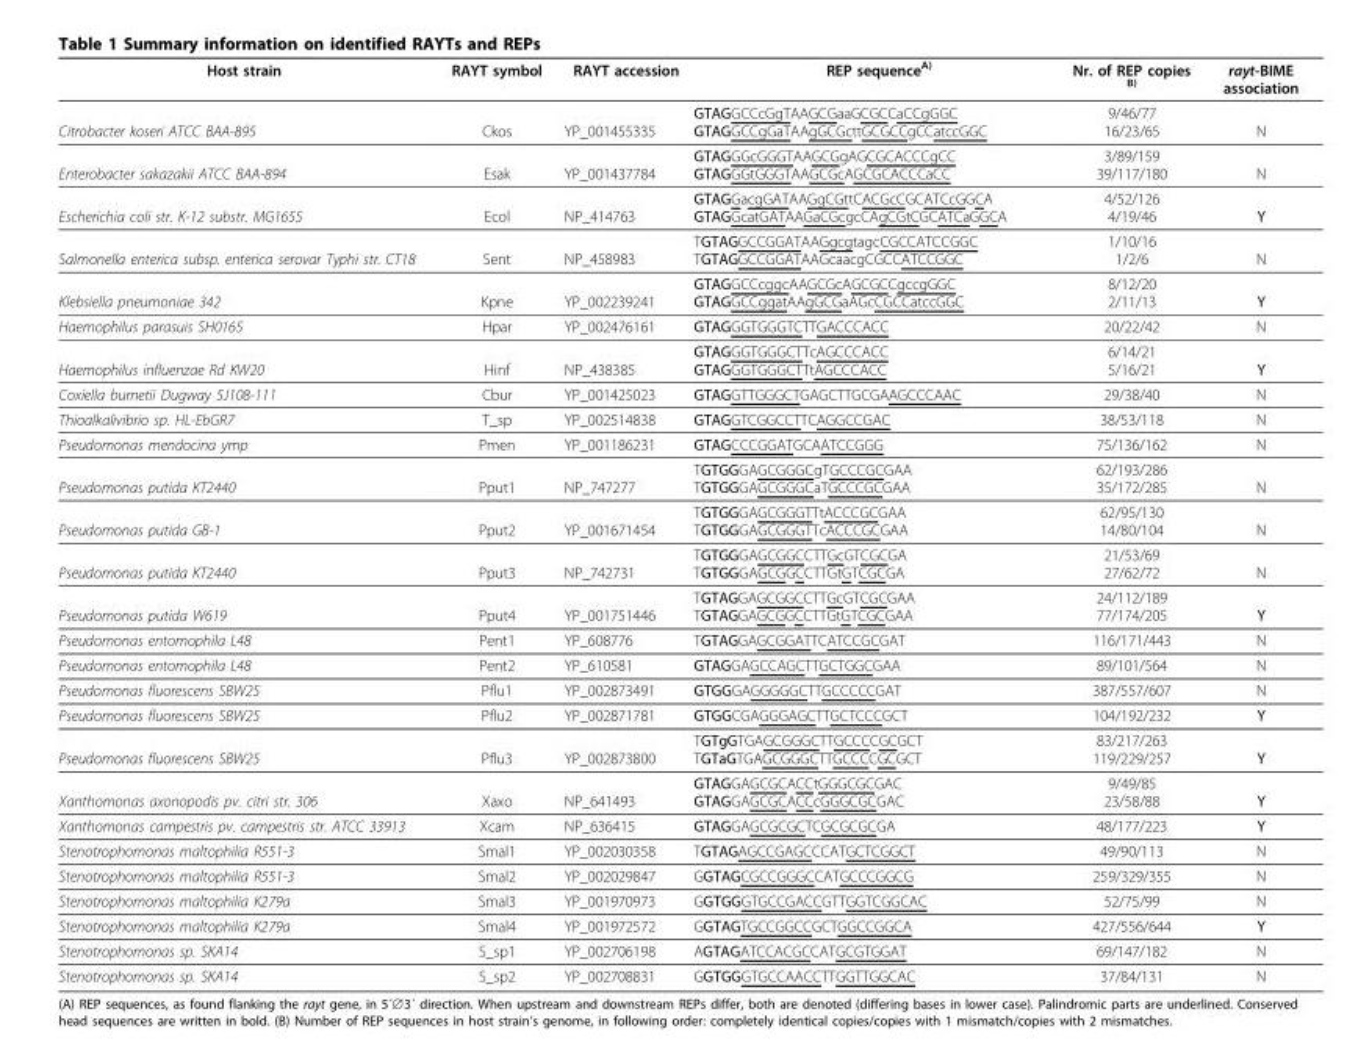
<table><thead><tr><td>Host strain</td><td>RAYT symbol</td><td>RAYT accession</td><td>REP sequenceA)</td><td>Nr. of REP copies B)</td><td>rayt-BIME association</td></tr></thead><tbody><tr><td>Citrobacter koseri ATCC BAA-895</td><td>Ckos</td><td>YP_001455335</td><td>GTAGGCCcGgTAAGCGaaGCGCCaCCgGGC GTAGGCCgGaTAAgGCGcttGCGCCgCCatccGGC</td><td>9/46/77 16/23/65</td><td>N</td></tr><tr><td>Enterobacter sakazakii ATCC BAA-894</td><td>Esak</td><td>YP_001437784</td><td>GTAGGGcGGGTAAGCGgAGCGCACCCgCC GTAGGGtGGGTAAGCGcAGCGCACCCaCC</td><td>3/89/159 39/117/180</td><td>N</td></tr><tr><td>Escherichia coli str. K-12 substr. MG1655</td><td>Ecol</td><td>NP_414763</td><td>GTAGGacgGATAAGgCGttCACGcCGCATCcGGCA GTAGGcatGATAAGaCGcgcCAgCGtCGCATCaGGCA</td><td>4/52/126 4/19/46</td><td>Y</td></tr><tr><td>Salmonella enterica subsp. enterica serovar Typhi str. CT18</td><td>Sent</td><td>NP_458983</td><td>TGTAGGCCGGATAAGgcgtagcCGCCATCCGGC TGTAGGCCGGATAAGcaacgCGCCATCCGGC</td><td>1/10/16 1/2/6</td><td>N</td></tr><tr><td>Klebsiella pneumoniae 342</td><td>Kpne</td><td>YP_002239241</td><td>GTAGGCCcggcAAGCGcAGCGCCgccgGGC GTAGGCCggatAAgGCGaAGcCGCCatccGGC</td><td>8/12/20 2/11/13</td><td>Y</td></tr><tr><td>Haemophilus parasuis SH0165</td><td>Hpar</td><td>YP_002476161</td><td>GTAGGGTGGGTCTTGACCCACC</td><td>20/22/42</td><td>N</td></tr><tr><td>Haemophilus influenzae Rd KW20</td><td>Hinf</td><td>NP_438385</td><td>GTAGGGTGGGCTTcAGCCCACC GTAGGGTGGGCTTtAGCCCACC</td><td>6/14/21 5/16/21</td><td>Y</td></tr><tr><td>Coxiella burnetii Dugway 5J108-111</td><td>Cbur</td><td>YP_001425023</td><td>GTAGGTTGGGCTGAGCTTGCGAAGCCCAAC</td><td>29/38/40</td><td>N</td></tr><tr><td>Thioalkalivibrio sp. HL-EbGR7</td><td>T_sp</td><td>YP_002514838</td><td>GTAGGTCGGCCTTCAGGCCGAC</td><td>38/53/118</td><td>N</td></tr><tr><td>Pseudomonas mendocina ymp</td><td>Pmen</td><td>YP_001186231</td><td>GTAGCCCGGATGCAATCCGGG</td><td>75/136/162</td><td>N</td></tr><tr><td>Pseudomonas putida KT2440</td><td>Pput1</td><td>NP_747277</td><td>TGTGGGAGCGGGCgTGCCCGCGAA TGTGGGAGCGGGCaTGCCCGCGAA</td><td>62/193/286 35/172/285</td><td>N</td></tr><tr><td>Pseudomonas putida GB-1</td><td>Pput2</td><td>YP_001671454</td><td>TGTGGGAGCGGGTTtACCCGCGAA TGTGGGAGCGGGTTcACCCGCGAA</td><td>62/95/130 14/80/104</td><td>N</td></tr><tr><td>Pseudomonas putida KT2440</td><td>Pput3</td><td>NP_742731</td><td>TGTGGGAGCGGCCTTGcGTCGCGA TGTGGGAGCGGCCTTGtGTCGCGA</td><td>21/53/69 27/62/72</td><td>N</td></tr><tr><td>Pseudomonas putida W619</td><td>Pput4</td><td>YP_001751446</td><td>TGTAGGAGCGGCCTTGcGTCGCGAA TGTAGGAGCGGCCTTGtGTCGCGAA</td><td>24/112/189 77/174/205</td><td>Y</td></tr><tr><td>Pseudomonas entomophila L48</td><td>Pent1</td><td>YP_608776</td><td>TGTAGGAGCGGATTCATCCGCGAT</td><td>116/171/443</td><td>N</td></tr><tr><td>Pseudomonas entomophila L48</td><td>Pent2</td><td>YP_610581</td><td>GTAGGAGCCAGCTTGCTGGCGAA</td><td>89/101/564</td><td>N</td></tr><tr><td>Pseudomonas fluorescens SBW25</td><td>Pflu1</td><td>YP_002873491</td><td>GTGGGAGGGGGCTTGCCCCCGAT</td><td>387/557/607</td><td>N</td></tr><tr><td>Pseudomonas fluorescens SBW25</td><td>Pflu2</td><td>YP_002871781</td><td>GTGGCGAGGGAGCTTGCTCCCGCT</td><td>104/192/232</td><td>Y</td></tr><tr><td>Pseudomonas fluorescens SBW25</td><td>Pflu3</td><td>YP_002873800</td><td>TGTgGTGAGCGGGCTTGCCCCGCGCT TGTaGTGAGCGGGCTTGCCCCGCGCT</td><td>83/217/263 119/229/257</td><td>Y</td></tr><tr><td>Xanthomonas axonopodis pv. citri str. 306</td><td>Xaxo</td><td>NP_641493</td><td>GTAGGAGCGCACCtGGGCGCGAC GTAGGAGCGCACCcGGGCGCGAC</td><td>9/49/85 23/58/88</td><td>Y</td></tr><tr><td>Xanthomonas campestris pv. campestris str. ATCC 33913</td><td>Xcam</td><td>NP_636415</td><td>GTAGGAGCGCGCTCGCGCGCGA</td><td>48/177/223</td><td>Y</td></tr><tr><td>Stenotrophomonas maltophilia R551-3</td><td>Smal1</td><td>YP_002030358</td><td>TGTAGAGCCGAGCCCATGCTCGGCT</td><td>49/90/113</td><td>N</td></tr><tr><td>Stenotrophomonas maltophilia R551-3</td><td>Smal2</td><td>YP_002029847</td><td>GGTAGCGCCGGGCCATGCCCGGCG</td><td>259/329/355</td><td>N</td></tr><tr><td>Stenotrophomonas maltophilia K279a</td><td>Smal3</td><td>YP_001970973</td><td>GGTGGGTGCCGACCGTTGGTCGGCAC</td><td>52/75/99</td><td>N</td></tr><tr><td>Stenotrophomonas maltophilia K279a</td><td>Smal4</td><td>YP_001972572</td><td>GGTAGTGCCGGCCGCTGGCCGGCA</td><td>427/556/644</td><td>Y</td></tr><tr><td>Stenotrophomonas sp. SKA14</td><td>S_sp1</td><td>YP_002706198</td><td>AGTAGATCCACGCCATGCGTGGAT</td><td>69/147/182</td><td>N</td></tr><tr><td>Stenotrophomonas sp. SKA14</td><td>S_sp2</td><td>YP_002708831</td><td>GGTGGGTGCCAACCTTGGTTGGCAC</td><td>37/84/131</td><td>N</td></tr></tbody></table>